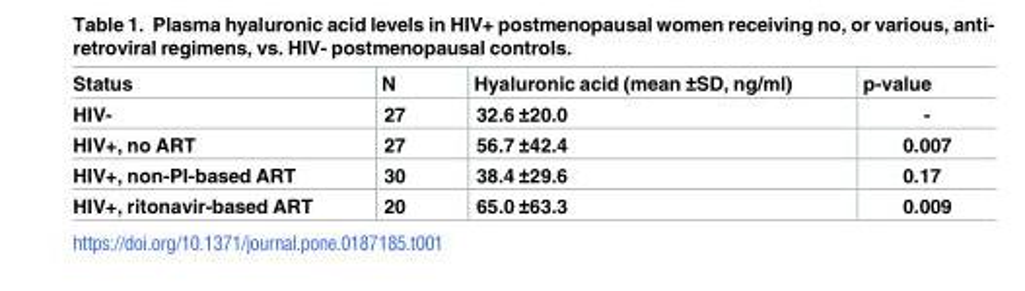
<table><thead><tr><td>Status</td><td>N</td><td>Hyaluronic acid (mean ±SD, ng/ml)</td><td>p-value</td></tr></thead><tbody><tr><td>HIV-</td><td>27</td><td>32.6 ±20.0</td><td>-</td></tr><tr><td>HIV+, no ART</td><td>27</td><td>56.7 ±42.4</td><td>0.007</td></tr><tr><td>HIV+, non-PI-based ART</td><td>30</td><td>38.4 ±29.6</td><td>0.17</td></tr><tr><td>HIV+, ritonavir-based ART</td><td>20</td><td>65.0 ±63.3</td><td>0.009</td></tr></tbody></table>